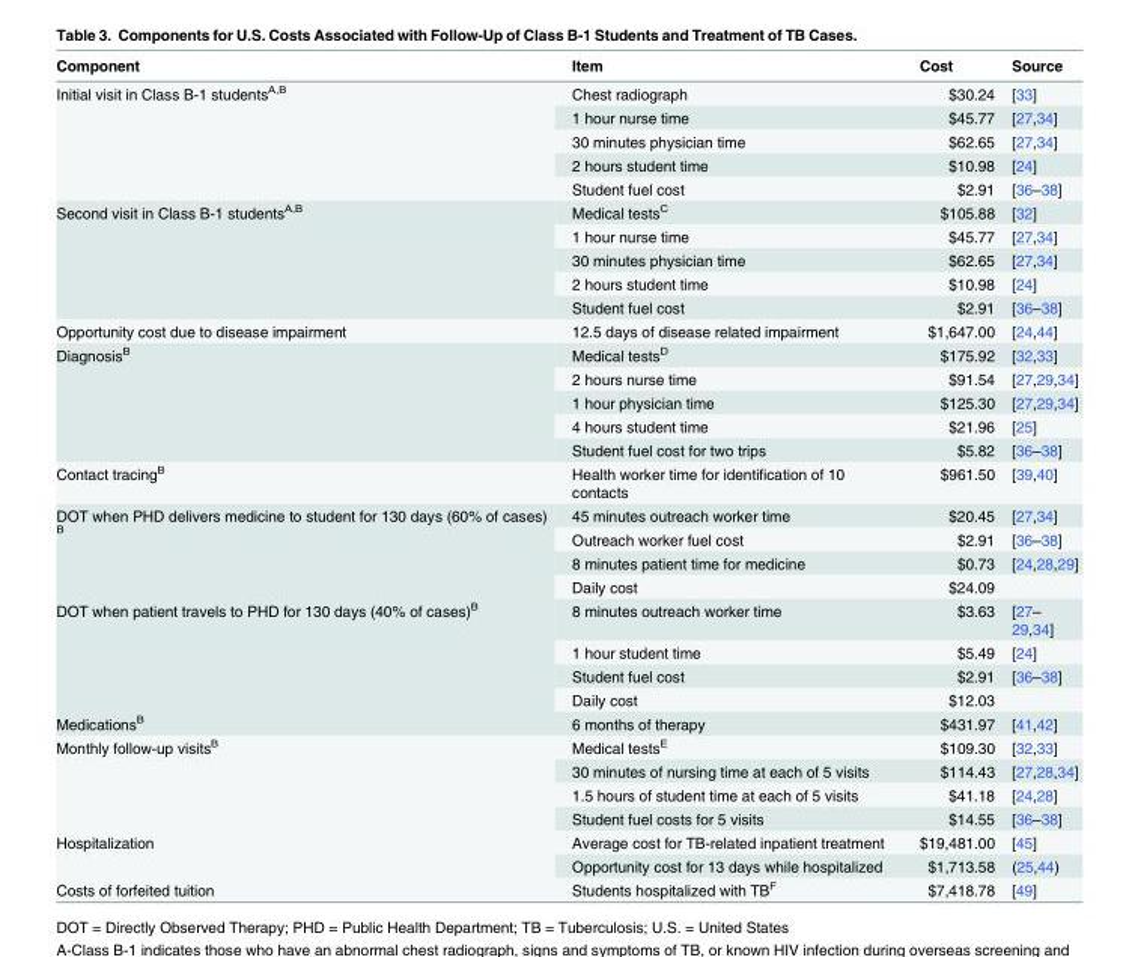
<table><thead><tr><td>Component</td><td>Item</td><td>Cost</td><td>Source</td></tr></thead><tbody><tr><td rowspan="5">Initial visit in Class B-1 students<sup>A,B</sup></td><td>Chest radiograph</td><td>$30.24</td><td>[33]</td></tr><tr><td>1 hour nurse time</td><td>$45.77</td><td>[27,34]</td></tr><tr><td>30 minutes physician time</td><td>$62.65</td><td>[27,34]</td></tr><tr><td>2 hours student time</td><td>$10.98</td><td>[24]</td></tr><tr><td>Student fuel cost</td><td>$2.91</td><td>[36–38]</td></tr><tr><td rowspan="5">Second visit in Class B-1 students<sup>A,B</sup></td><td>Medical tests<sup>C</sup></td><td>$105.88</td><td>[32]</td></tr><tr><td>1 hour nurse time</td><td>$45.77</td><td>[27,34]</td></tr><tr><td>30 minutes physician time</td><td>$62.65</td><td>[27,34]</td></tr><tr><td>2 hours student time</td><td>$10.98</td><td>[24]</td></tr><tr><td>Student fuel cost</td><td>$2.91</td><td>[36–38]</td></tr><tr><td>Opportunity cost due to disease impairment</td><td>12.5 days of disease related impairment</td><td>$1,647.00</td><td>[24,44]</td></tr><tr><td rowspan="5">Diagnosis<sup>B</sup></td><td>Medical tests<sup>D</sup></td><td>$175.92</td><td>[32,33]</td></tr><tr><td>2 hours nurse time</td><td>$91.54</td><td>[27,29,34]</td></tr><tr><td>1 hour physician time</td><td>$125.30</td><td>[27,29,34]</td></tr><tr><td>4 hours student time</td><td>$21.96</td><td>[25]</td></tr><tr><td>Student fuel cost for two trips</td><td>$5.82</td><td>[36–38]</td></tr><tr><td>Contact tracing<sup>B</sup></td><td>Health worker time for identification of 10 contacts</td><td>$961.50</td><td>[39,40]</td></tr><tr><td rowspan="4">DOT when PHD delivers medicine to student for 130 days (60% of cases) <sup>B</sup></td><td>45 minutes outreach worker time</td><td>$20.45</td><td>[27,34]</td></tr><tr><td>Outreach worker fuel cost</td><td>$2.91</td><td>[36–38]</td></tr><tr><td>8 minutes patient time for medicine</td><td>$0.73</td><td>[24,28,29]</td></tr><tr><td>Daily cost</td><td>$24.09</td><td></td></tr><tr><td rowspan="4">DOT when patient travels to PHD for 130 days (40% of cases)<sup>B</sup></td><td>8 minutes outreach worker time</td><td>$3.63</td><td>[27– 29,34]</td></tr><tr><td>1 hour student time</td><td>$5.49</td><td>[24]</td></tr><tr><td>Student fuel cost</td><td>$2.91</td><td>[36–38]</td></tr><tr><td>Daily cost</td><td>$12.03</td><td></td></tr><tr><td>Medications<sup>B</sup></td><td>6 months of therapy</td><td>$431.97</td><td>[41,42]</td></tr><tr><td rowspan="4">Monthly follow-up visits<sup>B</sup></td><td>Medical tests<sup>E</sup></td><td>$109.30</td><td>[32,33]</td></tr><tr><td>30 minutes of nursing time at each of 5 visits</td><td>$114.43</td><td>[27,28,34]</td></tr><tr><td>1.5 hours of student time at each of 5 visits</td><td>$41.18</td><td>[24,28]</td></tr><tr><td>Student fuel costs for 5 visits</td><td>$14.55</td><td>[36–38]</td></tr><tr><td rowspan="2">Hospitalization</td><td>Average cost for TB-related inpatient treatment</td><td>$19,481.00</td><td>[45]</td></tr><tr><td>Opportunity cost for 13 days while hospitalized</td><td>$1,713.58</td><td>(25,44)</td></tr><tr><td>Costs of forfeited tuition</td><td>Students hospitalized with TB<sup>F</sup></td><td>$7,418.78</td><td>[49]</td></tr></tbody></table>